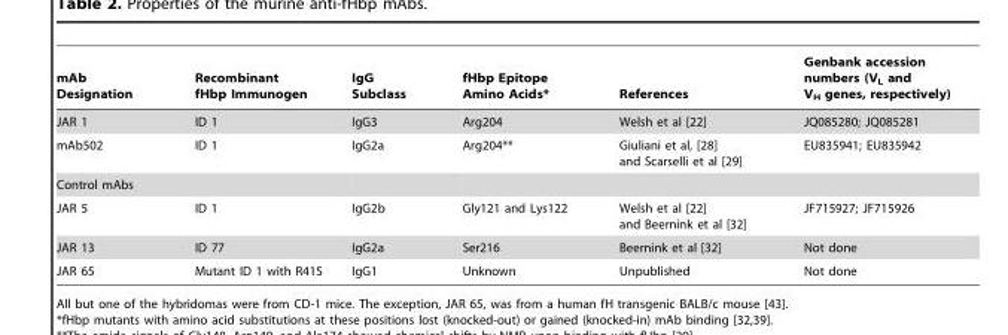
<table><thead><tr><td>mAb Designation</td><td>Recombinant fHbp Immunogen</td><td>IgG Subclass</td><td>fHbp Epitope Amino Acids*</td><td>References</td><td>Genbank accession numbers (V<sub>L</sub> and V<sub>H</sub> genes, respectively)</td></tr></thead><tbody><tr><td>JAR 1</td><td>ID 1</td><td>IgG3</td><td>Arg204</td><td>Welsh et al [22]</td><td>JQ085280; JQ085281</td></tr><tr><td>mAb502</td><td>ID 1</td><td>IgG2a</td><td>Arg204**</td><td>Giuliani et al, [28] and Scarselli et al [29]</td><td>EU835941; EU835942</td></tr><tr><td colspan="6">Control mAbs</td></tr><tr><td>JAR 5</td><td>ID 1</td><td>IgG2b</td><td>Gly121 and Lys122</td><td>Welsh et al [22] and Beernink et al [32]</td><td>JF715927; JF715926</td></tr><tr><td>JAR 13</td><td>ID 77</td><td>IgG2a</td><td>Ser216</td><td>Beernink et al [32]</td><td>Not done</td></tr><tr><td>JAR 65</td><td>Mutant ID 1 with R41S</td><td>IgG1</td><td>Unknown</td><td>Unpublished</td><td>Not done</td></tr></tbody></table>